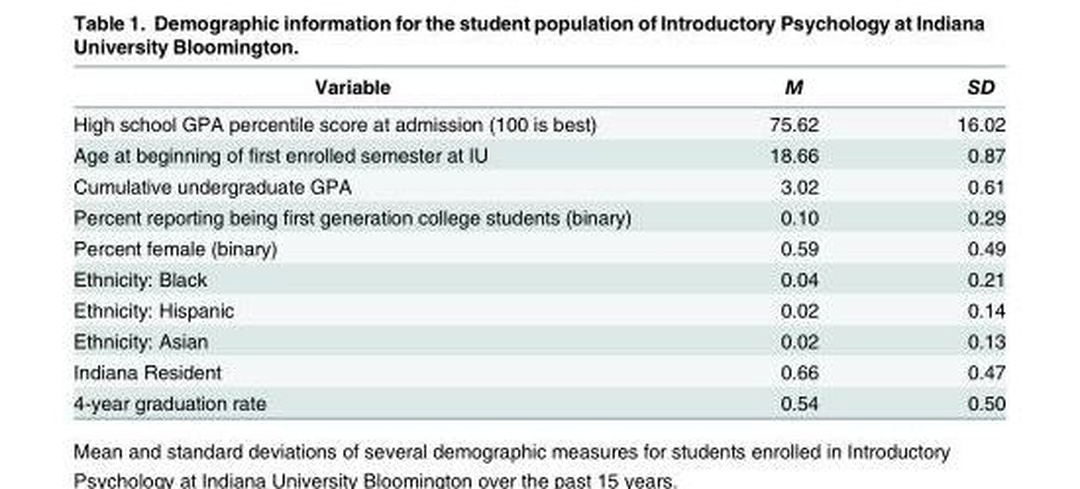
<table><thead><tr><td>Variable</td><td>M</td><td>SD</td></tr></thead><tbody><tr><td>High school GPA percentile score at admission (100 is best)</td><td>75.62</td><td>16.02</td></tr><tr><td>Age at beginning of first enrolled semester at IU</td><td>18.66</td><td>0.87</td></tr><tr><td>Cumulative undergraduate GPA</td><td>3.02</td><td>0.61</td></tr><tr><td>Percent reporting being first generation college students (binary)</td><td>0.10</td><td>0.29</td></tr><tr><td>Percent female (binary)</td><td>0.59</td><td>0.49</td></tr><tr><td>Ethnicity: Black</td><td>0.04</td><td>0.21</td></tr><tr><td>Ethnicity: Hispanic</td><td>0.02</td><td>0.14</td></tr><tr><td>Ethnicity: Asian</td><td>0.02</td><td>0.13</td></tr><tr><td>Indiana Resident</td><td>0.66</td><td>0.47</td></tr><tr><td>4-year graduation rate</td><td>0.54</td><td>0.50</td></tr></tbody></table>